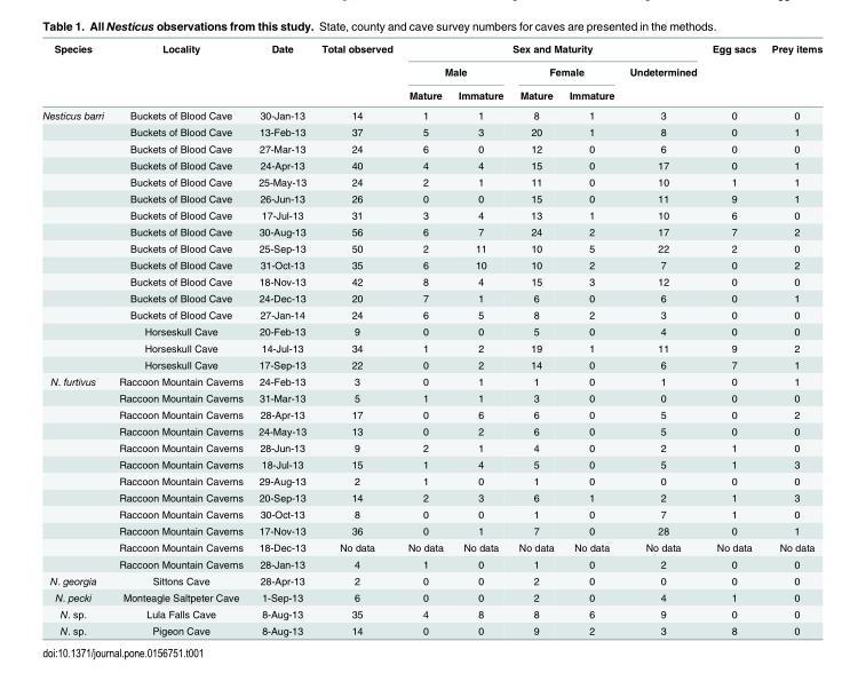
<table><thead><tr><td rowspan="3">Species</td><td rowspan="3">Locality</td><td rowspan="3">Date</td><td rowspan="3">Total observed</td><td colspan="5">Sex and Maturity</td><td rowspan="3">Egg sacs</td><td rowspan="3">Prey items</td></tr><tr><td colspan="2">Male</td><td colspan="2">Female</td><td rowspan="2">Undetermined</td></tr><tr><td>Mature</td><td>Immature</td><td>Mature</td><td>Immature</td></tr></thead><tbody><tr><td rowspan="16">Nesticus barri</td><td>Buckets of Blood Cave</td><td>30-Jan-13</td><td>14</td><td>1</td><td>1</td><td>8</td><td>1</td><td>3</td><td>0</td><td>0</td></tr><tr><td>Buckets of Blood Cave</td><td>13-Feb-13</td><td>37</td><td>5</td><td>3</td><td>20</td><td>1</td><td>8</td><td>0</td><td>1</td></tr><tr><td>Buckets of Blood Cave</td><td>27-Mar-13</td><td>24</td><td>6</td><td>0</td><td>12</td><td>0</td><td>6</td><td>0</td><td>0</td></tr><tr><td>Buckets of Blood Cave</td><td>24-Apr-13</td><td>40</td><td>4</td><td>4</td><td>15</td><td>0</td><td>17</td><td>0</td><td>1</td></tr><tr><td>Buckets of Blood Cave</td><td>25-May-13</td><td>24</td><td>2</td><td>1</td><td>11</td><td>0</td><td>10</td><td>1</td><td>1</td></tr><tr><td>Buckets of Blood Cave</td><td>26-Jun-13</td><td>26</td><td>0</td><td>0</td><td>15</td><td>0</td><td>11</td><td>9</td><td>1</td></tr><tr><td>Buckets of Blood Cave</td><td>17-Jul-13</td><td>31</td><td>3</td><td>4</td><td>13</td><td>1</td><td>10</td><td>6</td><td>0</td></tr><tr><td>Buckets of Blood Cave</td><td>30-Aug-13</td><td>56</td><td>6</td><td>7</td><td>24</td><td>2</td><td>17</td><td>7</td><td>2</td></tr><tr><td>Buckets of Blood Cave</td><td>25-Sep-13</td><td>50</td><td>2</td><td>11</td><td>10</td><td>5</td><td>22</td><td>2</td><td>0</td></tr><tr><td>Buckets of Blood Cave</td><td>31-Oct-13</td><td>35</td><td>6</td><td>10</td><td>10</td><td>2</td><td>7</td><td>0</td><td>2</td></tr><tr><td>Buckets of Blood Cave</td><td>18-Nov-13</td><td>42</td><td>8</td><td>4</td><td>15</td><td>3</td><td>12</td><td>0</td><td>0</td></tr><tr><td>Buckets of Blood Cave</td><td>24-Dec-13</td><td>20</td><td>7</td><td>1</td><td>6</td><td>0</td><td>6</td><td>0</td><td>1</td></tr><tr><td>Buckets of Blood Cave</td><td>27-Jan-14</td><td>24</td><td>6</td><td>5</td><td>8</td><td>2</td><td>3</td><td>0</td><td>0</td></tr><tr><td>Horseskull Cave</td><td>20-Feb-13</td><td>9</td><td>0</td><td>0</td><td>5</td><td>0</td><td>4</td><td>0</td><td>0</td></tr><tr><td>Horseskull Cave</td><td>14-Jul-13</td><td>34</td><td>1</td><td>2</td><td>19</td><td>1</td><td>11</td><td>9</td><td>2</td></tr><tr><td>Horseskull Cave</td><td>17-Sep-13</td><td>22</td><td>0</td><td>2</td><td>14</td><td>0</td><td>6</td><td>7</td><td>1</td></tr><tr><td rowspan="12">N. furtivus</td><td>Raccoon Mountain Caverns</td><td>24-Feb-13</td><td>3</td><td>0</td><td>1</td><td>1</td><td>0</td><td>1</td><td>0</td><td>1</td></tr><tr><td>Raccoon Mountain Caverns</td><td>31-Mar-13</td><td>5</td><td>1</td><td>1</td><td>3</td><td>0</td><td>0</td><td>0</td><td>0</td></tr><tr><td>Raccoon Mountain Caverns</td><td>28-Apr-13</td><td>17</td><td>0</td><td>6</td><td>6</td><td>0</td><td>5</td><td>0</td><td>2</td></tr><tr><td>Raccoon Mountain Caverns</td><td>24-May-13</td><td>13</td><td>0</td><td>2</td><td>6</td><td>0</td><td>5</td><td>0</td><td>0</td></tr><tr><td>Raccoon Mountain Caverns</td><td>28-Jun-13</td><td>9</td><td>2</td><td>1</td><td>4</td><td>0</td><td>2</td><td>1</td><td>0</td></tr><tr><td>Raccoon Mountain Caverns</td><td>18-Jul-13</td><td>15</td><td>1</td><td>4</td><td>5</td><td>0</td><td>5</td><td>1</td><td>3</td></tr><tr><td>Raccoon Mountain Caverns</td><td>29-Aug-13</td><td>2</td><td>1</td><td>0</td><td>1</td><td>0</td><td>0</td><td>0</td><td>0</td></tr><tr><td>Raccoon Mountain Caverns</td><td>20-Sep-13</td><td>14</td><td>2</td><td>3</td><td>6</td><td>1</td><td>2</td><td>1</td><td>3</td></tr><tr><td>Raccoon Mountain Caverns</td><td>30-Oct-13</td><td>8</td><td>0</td><td>0</td><td>1</td><td>0</td><td>7</td><td>1</td><td>0</td></tr><tr><td>Raccoon Mountain Caverns</td><td>17-Nov-13</td><td>36</td><td>0</td><td>1</td><td>7</td><td>0</td><td>28</td><td>0</td><td>1</td></tr><tr><td>Raccoon Mountain Caverns</td><td>18-Dec-13</td><td>No data</td><td>No data</td><td>No data</td><td>No data</td><td>No data</td><td>No data</td><td>No data</td><td>No data</td></tr><tr><td>Raccoon Mountain Caverns</td><td>28-Jan-13</td><td>4</td><td>1</td><td>0</td><td>1</td><td>0</td><td>2</td><td>0</td><td>0</td></tr><tr><td>N. georgia</td><td>Sittons Cave</td><td>28-Apr-13</td><td>2</td><td>0</td><td>0</td><td>2</td><td>0</td><td>0</td><td>0</td><td>0</td></tr><tr><td>N. pecki</td><td>Monteagle Saltpeter Cave</td><td>1-Sep-13</td><td>6</td><td>0</td><td>0</td><td>2</td><td>0</td><td>4</td><td>1</td><td>0</td></tr><tr><td>N. sp.</td><td>Lula Falls Cave</td><td>8-Aug-13</td><td>35</td><td>4</td><td>8</td><td>8</td><td>6</td><td>9</td><td>0</td><td>0</td></tr><tr><td>N. sp.</td><td>Pigeon Cave</td><td>8-Aug-13</td><td>14</td><td>0</td><td>0</td><td>9</td><td>2</td><td>3</td><td>8</td><td>0</td></tr></tbody></table>